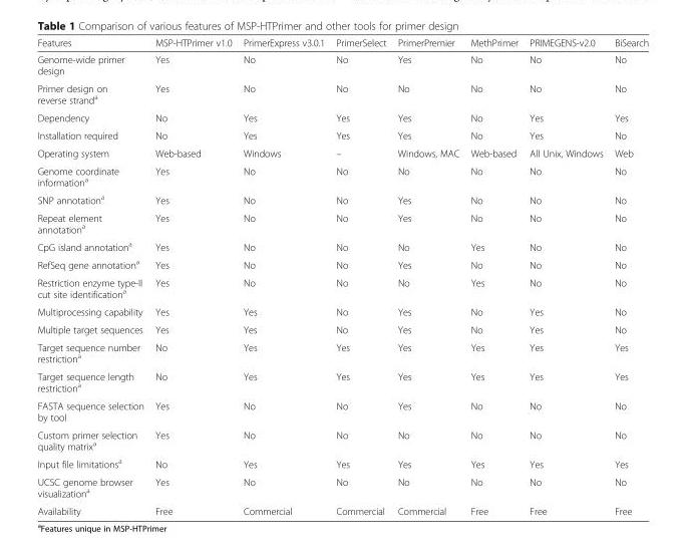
<table><thead><tr><td>Features</td><td>MSP-HTPrimer v1.0</td><td>PrimerExpress v3.0.1</td><td>PrimerSelect</td><td>PrimerPremier</td><td>MethPrimer</td><td>PRIMEGENS-v2.0</td><td>BiSearch</td></tr></thead><tbody><tr><td>Genome-wide primer design</td><td>Yes</td><td>No</td><td>No</td><td>Yes</td><td>No</td><td>No</td><td>No</td></tr><tr><td>Primer design on reverse strand<sup>a</sup></td><td>Yes</td><td>No</td><td>No</td><td>No</td><td>No</td><td>No</td><td>No</td></tr><tr><td>Dependency</td><td>No</td><td>Yes</td><td>Yes</td><td>Yes</td><td>No</td><td>Yes</td><td>Yes</td></tr><tr><td>Installation required</td><td>No</td><td>Yes</td><td>Yes</td><td>Yes</td><td>No</td><td>Yes</td><td>No</td></tr><tr><td>Operating system</td><td>Web-based</td><td>Windows</td><td>–</td><td>Windows, MAC</td><td>Web-based</td><td>All Unix, Windows</td><td>Web</td></tr><tr><td>Genome coordinate information<sup>a</sup></td><td>Yes</td><td>No</td><td>No</td><td>No</td><td>No</td><td>No</td><td>No</td></tr><tr><td>SNP annotation<sup>a</sup></td><td>Yes</td><td>No</td><td>No</td><td>Yes</td><td>No</td><td>No</td><td>No</td></tr><tr><td>Repeat element annotation<sup>a</sup></td><td>Yes</td><td>No</td><td>No</td><td>Yes</td><td>No</td><td>No</td><td>No</td></tr><tr><td>CpG island annotation<sup>a</sup></td><td>Yes</td><td>No</td><td>No</td><td>No</td><td>Yes</td><td>No</td><td>No</td></tr><tr><td>RefSeq gene annotation<sup>a</sup></td><td>Yes</td><td>No</td><td>No</td><td>Yes</td><td>No</td><td>No</td><td>No</td></tr><tr><td>Restriction enzyme type-II cut site identification<sup>a</sup></td><td>Yes</td><td>No</td><td>No</td><td>No</td><td>Yes</td><td>No</td><td>No</td></tr><tr><td>Multiprocessing capability</td><td>Yes</td><td>Yes</td><td>No</td><td>Yes</td><td>No</td><td>Yes</td><td>No</td></tr><tr><td>Multiple target sequences</td><td>Yes</td><td>Yes</td><td>No</td><td>Yes</td><td>No</td><td>Yes</td><td>No</td></tr><tr><td>Target sequence number restriction<sup>a</sup></td><td>No</td><td>Yes</td><td>Yes</td><td>Yes</td><td>Yes</td><td>Yes</td><td>Yes</td></tr><tr><td>Target sequence length restriction<sup>a</sup></td><td>No</td><td>Yes</td><td>Yes</td><td>Yes</td><td>Yes</td><td>Yes</td><td>Yes</td></tr><tr><td>FASTA sequence selection by tool</td><td>Yes</td><td>No</td><td>No</td><td>Yes</td><td>No</td><td>No</td><td>No</td></tr><tr><td>Custom primer selection quality matrix<sup>a</sup></td><td>Yes</td><td>No</td><td>No</td><td>No</td><td>No</td><td>No</td><td>No</td></tr><tr><td>Input file limitations<sup>a</sup></td><td>No</td><td>Yes</td><td>Yes</td><td>Yes</td><td>Yes</td><td>Yes</td><td>Yes</td></tr><tr><td>UCSC genome browser visualization<sup>a</sup></td><td>Yes</td><td>No</td><td>No</td><td>No</td><td>No</td><td>No</td><td>No</td></tr><tr><td>Availability</td><td>Free</td><td>Commercial</td><td>Commercial</td><td>Commercial</td><td>Free</td><td>Free</td><td>Free</td></tr></tbody></table>